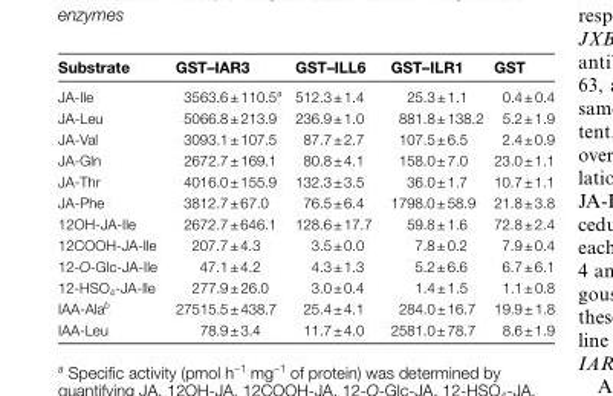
<table><thead><tr><td>Substrate</td><td>GST–IAR3</td><td>GST–ILL6</td><td>GST–ILR1</td><td>GST</td></tr></thead><tbody><tr><td>JA-Ile</td><td>3563.6 ± 110.5<sup>a</sup></td><td>512.3 ± 1.4</td><td>25.3 ± 1.1</td><td>0.4 ± 0.4</td></tr><tr><td>JA-Leu</td><td>5066.8 ± 213.9</td><td>236.9 ± 1.0</td><td>881.8 ± 138.2</td><td>5.2 ± 1.9</td></tr><tr><td>JA-Val</td><td>3093.1 ± 107.5</td><td>87.7 ± 2.7</td><td>107.5 ± 6.5</td><td>2.4 ± 0.9</td></tr><tr><td>JA-Gln</td><td>2672.7 ± 169.1</td><td>80.8 ± 4.1</td><td>158.0 ± 7.0</td><td>23.0 ± 1.1</td></tr><tr><td>JA-Thr</td><td>4016.0 ± 155.9</td><td>132.3 ± 3.5</td><td>36.0 ± 1.7</td><td>10.7 ± 1.1</td></tr><tr><td>JA-Phe</td><td>3812.7 ± 67.0</td><td>76.5 ± 6.4</td><td>1798.0 ± 58.9</td><td>21.8 ± 3.8</td></tr><tr><td>12OH-JA-Ile</td><td>2672.7 ± 646.1</td><td>128.6 ± 17.7</td><td>59.8 ± 1.6</td><td>72.8 ± 2.4</td></tr><tr><td>12COOH-JA-Ile</td><td>207.7 ± 4.3</td><td>3.5 ± 0.0</td><td>7.8 ± 0.2</td><td>7.9 ± 0.4</td></tr><tr><td>12-O-Glc-JA-Ile</td><td>47.1 ± 4.2</td><td>4.3 ± 1.3</td><td>5.2 ± 6.6</td><td>6.7 ± 6.1</td></tr><tr><td>12-HSO<sub>4</sub>-JA-Ile</td><td>277.9 ± 26.0</td><td>3.0 ± 0.4</td><td>1.4 ± 1.5</td><td>1.1 ± 0.8</td></tr><tr><td>IAA-Ala<sup>b</sup></td><td>27515.5 ± 438.7</td><td>25.4 ± 4.1</td><td>284.0 ± 16.7</td><td>19.9 ± 1.8</td></tr><tr><td>IAA-Leu</td><td>78.9 ± 3.4</td><td>11.7 ± 4.0</td><td>2581.0 ± 78.7</td><td>8.6 ± 1.9</td></tr></tbody></table>